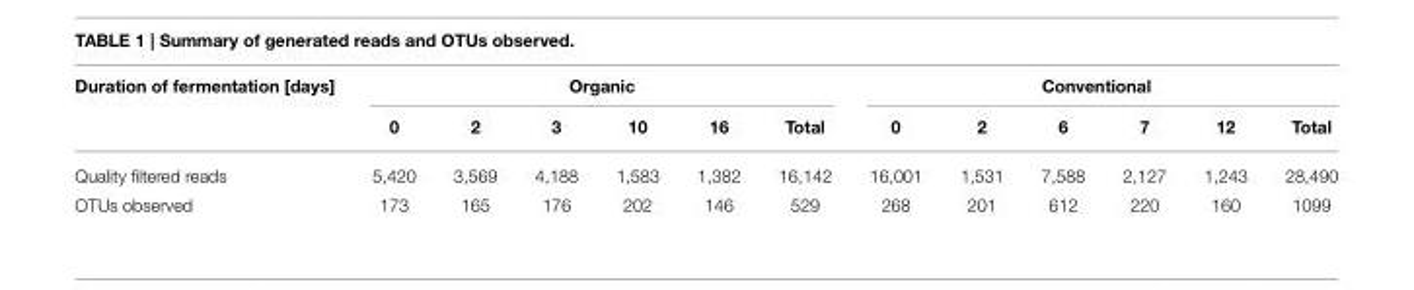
<table><thead><tr><td rowspan="2">Duration of fermentation [days]</td><td colspan="6">Organic</td><td colspan="6">Conventional</td></tr><tr><td>0</td><td>2</td><td>3</td><td>10</td><td>16</td><td>Total</td><td>0</td><td>2</td><td>6</td><td>7</td><td>12</td><td>Total</td></tr></thead><tbody><tr><td>Quality filtered reads</td><td>5,420</td><td>3,569</td><td>4,188</td><td>1,583</td><td>1,382</td><td>16,142</td><td>16,001</td><td>1,531</td><td>7,588</td><td>2,127</td><td>1,243</td><td>28,490</td></tr><tr><td>OTUs observed</td><td>173</td><td>165</td><td>176</td><td>202</td><td>146</td><td>529</td><td>268</td><td>201</td><td>612</td><td>220</td><td>160</td><td>1099</td></tr></tbody></table>